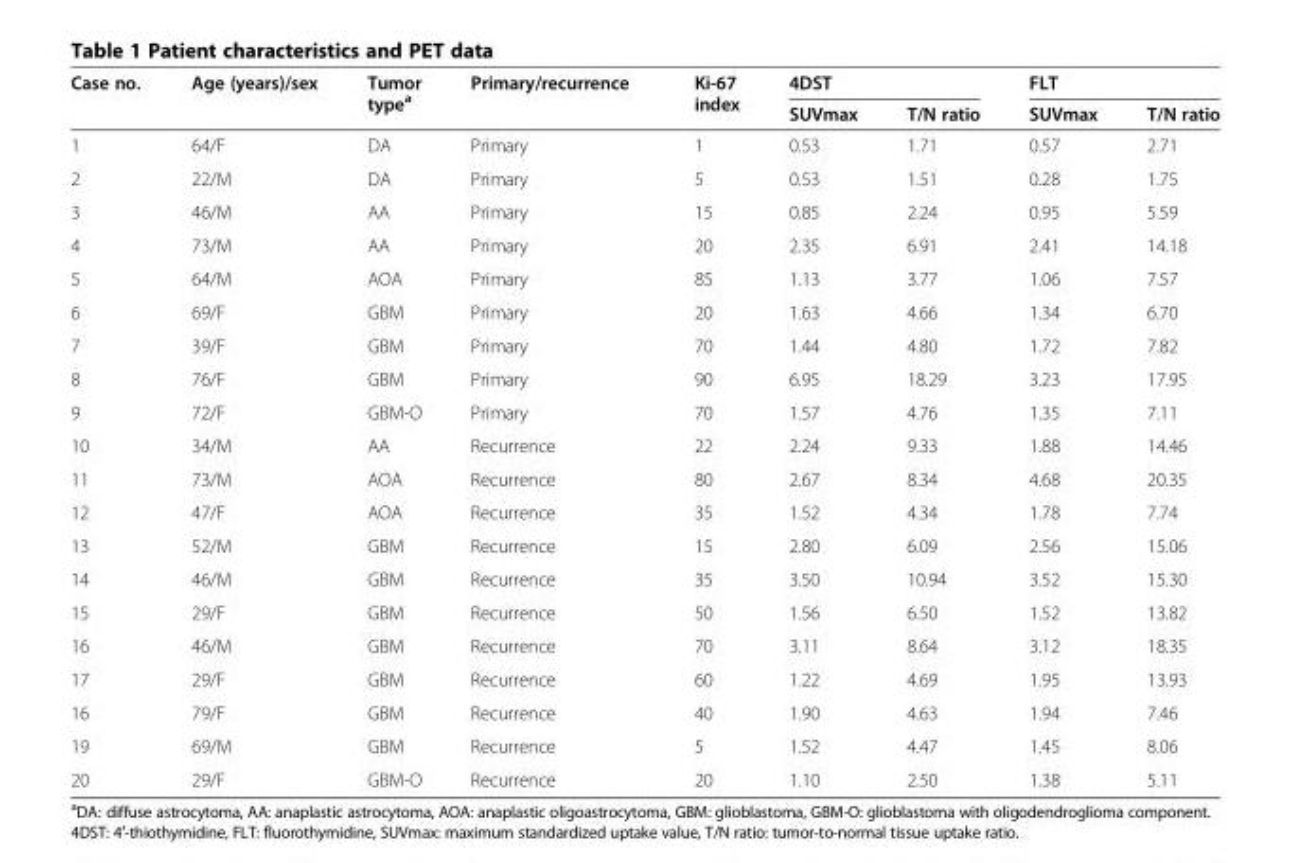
<table><thead><tr><td rowspan="2">Case no.</td><td rowspan="2">Age (years)/sex</td><td rowspan="2">Tumor type<sup>a</sup></td><td rowspan="2">Primary/recurrence</td><td rowspan="2">Ki-67 index</td><td colspan="2">4DST</td><td colspan="2">FLT</td></tr><tr><td>SUVmax</td><td>T/N ratio</td><td>SUVmax</td><td>T/N ratio</td></tr></thead><tbody><tr><td>1</td><td>64/F</td><td>DA</td><td>Primary</td><td>1</td><td>0.53</td><td>1.71</td><td>0.57</td><td>2.71</td></tr><tr><td>2</td><td>22/M</td><td>DA</td><td>Primary</td><td>5</td><td>0.53</td><td>1.51</td><td>0.28</td><td>1.75</td></tr><tr><td>3</td><td>46/M</td><td>AA</td><td>Primary</td><td>15</td><td>0.85</td><td>2.24</td><td>0.95</td><td>5.59</td></tr><tr><td>4</td><td>73/M</td><td>AA</td><td>Primary</td><td>20</td><td>2.35</td><td>6.91</td><td>2.41</td><td>14.18</td></tr><tr><td>5</td><td>64/M</td><td>AOA</td><td>Primary</td><td>85</td><td>1.13</td><td>3.77</td><td>1.06</td><td>7.57</td></tr><tr><td>6</td><td>69/F</td><td>GBM</td><td>Primary</td><td>20</td><td>1.63</td><td>4.66</td><td>1.34</td><td>6.70</td></tr><tr><td>7</td><td>39/F</td><td>GBM</td><td>Primary</td><td>70</td><td>1.44</td><td>4.80</td><td>1.72</td><td>7.82</td></tr><tr><td>8</td><td>76/F</td><td>GBM</td><td>Primary</td><td>90</td><td>6.95</td><td>18.29</td><td>3.23</td><td>17.95</td></tr><tr><td>9</td><td>72/F</td><td>GBM-O</td><td>Primary</td><td>70</td><td>1.57</td><td>4.76</td><td>1.35</td><td>7.11</td></tr><tr><td>10</td><td>34/M</td><td>AA</td><td>Recurrence</td><td>22</td><td>2.24</td><td>9.33</td><td>1.88</td><td>14.46</td></tr><tr><td>11</td><td>73/M</td><td>AOA</td><td>Recurrence</td><td>80</td><td>2.67</td><td>8.34</td><td>4.68</td><td>20.35</td></tr><tr><td>12</td><td>47/F</td><td>AOA</td><td>Recurrence</td><td>35</td><td>1.52</td><td>4.34</td><td>1.78</td><td>7.74</td></tr><tr><td>13</td><td>52/M</td><td>GBM</td><td>Recurrence</td><td>15</td><td>2.80</td><td>6.09</td><td>2.56</td><td>15.06</td></tr><tr><td>14</td><td>46/M</td><td>GBM</td><td>Recurrence</td><td>35</td><td>3.50</td><td>10.94</td><td>3.52</td><td>15.30</td></tr><tr><td>15</td><td>29/F</td><td>GBM</td><td>Recurrence</td><td>50</td><td>1.56</td><td>6.50</td><td>1.52</td><td>13.82</td></tr><tr><td>16</td><td>46/M</td><td>GBM</td><td>Recurrence</td><td>70</td><td>3.11</td><td>8.64</td><td>3.12</td><td>18.35</td></tr><tr><td>17</td><td>29/F</td><td>GBM</td><td>Recurrence</td><td>60</td><td>1.22</td><td>4.69</td><td>1.95</td><td>13.93</td></tr><tr><td>16</td><td>79/F</td><td>GBM</td><td>Recurrence</td><td>40</td><td>1.90</td><td>4.63</td><td>1.94</td><td>7.46</td></tr><tr><td>19</td><td>69/M</td><td>GBM</td><td>Recurrence</td><td>5</td><td>1.52</td><td>4.47</td><td>1.45</td><td>8.06</td></tr><tr><td>20</td><td>29/F</td><td>GBM-O</td><td>Recurrence</td><td>20</td><td>1.10</td><td>2.50</td><td>1.38</td><td>5.11</td></tr></tbody></table>